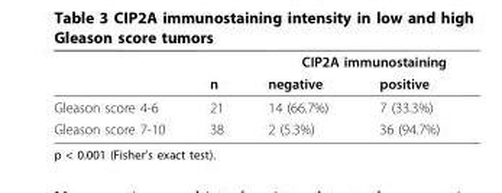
<table><thead><tr><td rowspan="2"></td><td rowspan="2">n</td><td colspan="2">CIP2A immunostaining</td></tr><tr><td>negative</td><td>positive</td></tr></thead><tbody><tr><td>Gleason score 4-6</td><td>21</td><td>14 (66.7%)</td><td>7 (33.3%)</td></tr><tr><td>Gleason score 7-10</td><td>38</td><td>2 (5.3%)</td><td>36 (94.7%)</td></tr></tbody></table>